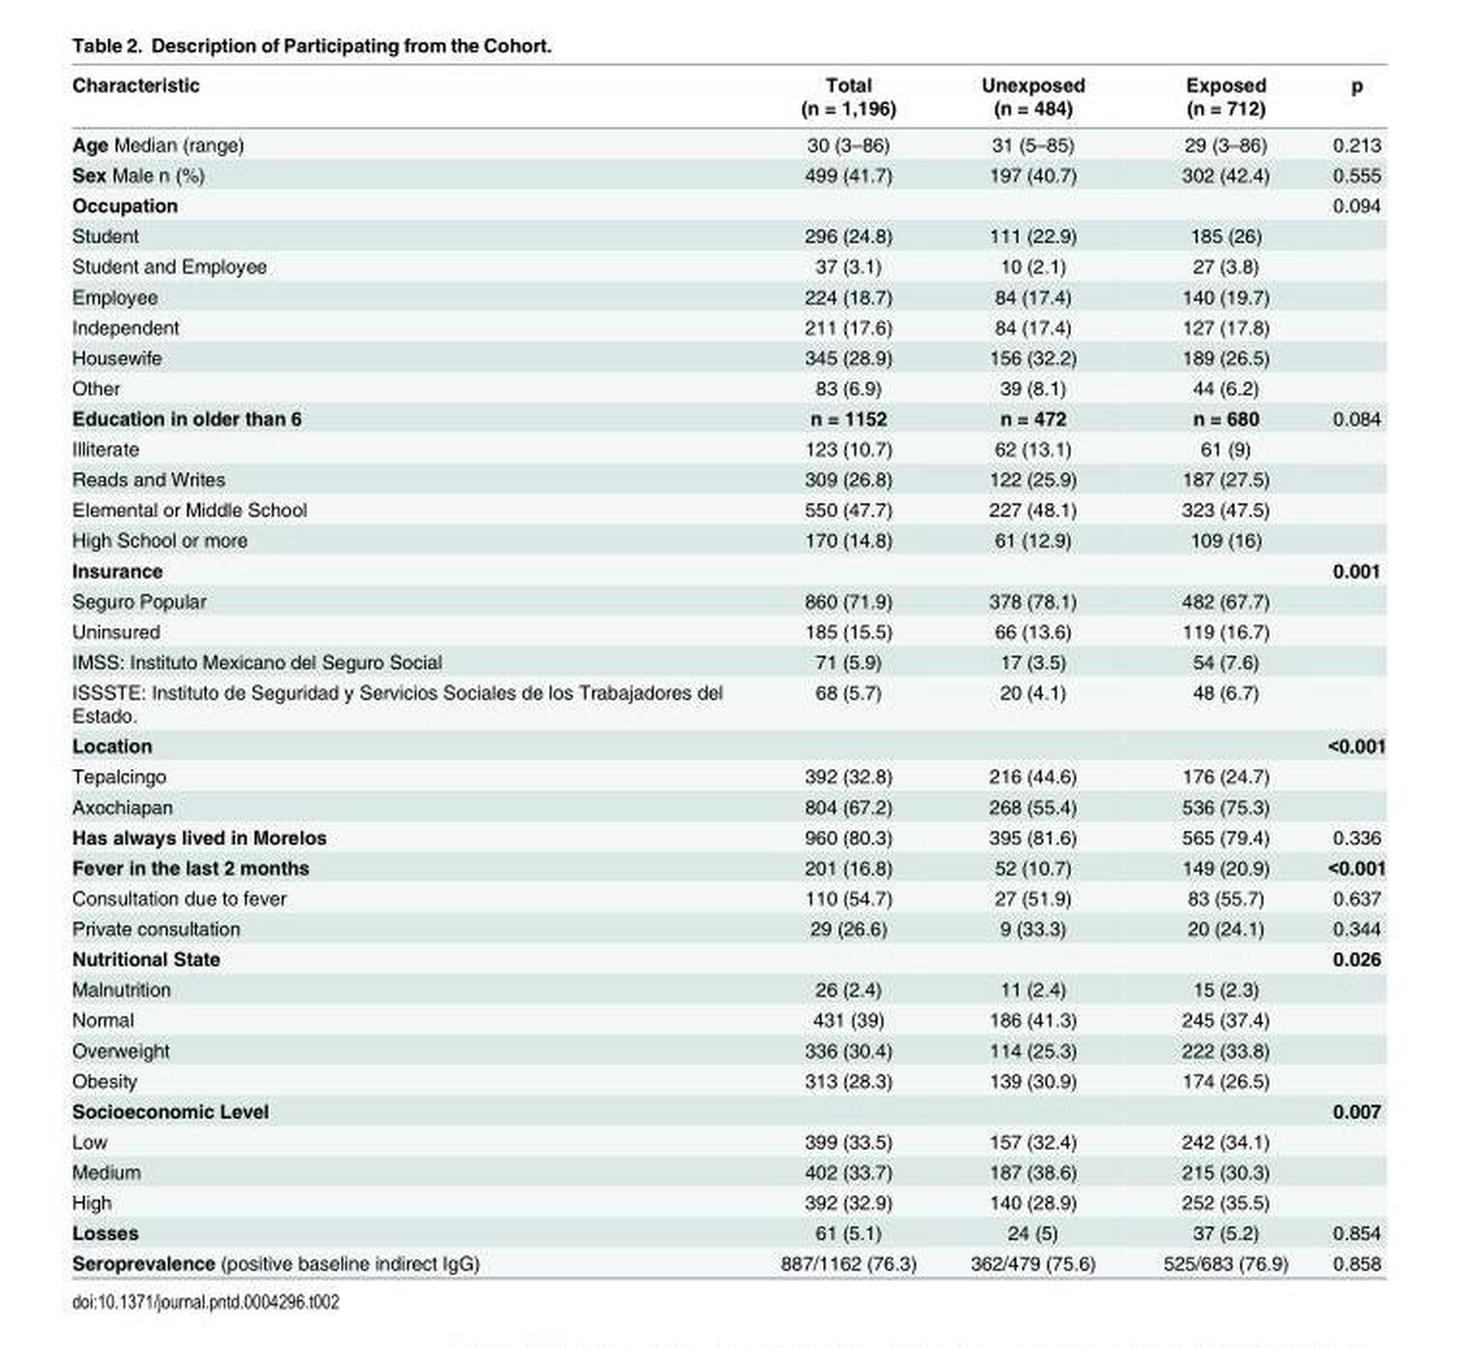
<table><thead><tr><td>Characteristic</td><td>Total (n = 1,196)</td><td>Unexposed (n = 484)</td><td>Exposed (n = 712)</td><td>p</td></tr></thead><tbody><tr><td>Age Median (range)</td><td>30 (3–86)</td><td>31 (5–85)</td><td>29 (3–86)</td><td>0.213</td></tr><tr><td>Sex Male n (%)</td><td>499 (41.7)</td><td>197 (40.7)</td><td>302 (42.4)</td><td>0.555</td></tr><tr><td>Occupation</td><td></td><td></td><td></td><td>0.094</td></tr><tr><td>Student</td><td>296 (24.8)</td><td>111 (22.9)</td><td>185 (26)</td><td></td></tr><tr><td>Student and Employee</td><td>37 (3.1)</td><td>10 (2.1)</td><td>27 (3.8)</td><td></td></tr><tr><td>Employee</td><td>224 (18.7)</td><td>84 (17.4)</td><td>140 (19.7)</td><td></td></tr><tr><td>Independent</td><td>211 (17.6)</td><td>84 (17.4)</td><td>127 (17.8)</td><td></td></tr><tr><td>Housewife</td><td>345 (28.9)</td><td>156 (32.2)</td><td>189 (26.5)</td><td></td></tr><tr><td>Other</td><td>83 (6.9)</td><td>39 (8.1)</td><td>44 (6.2)</td><td></td></tr><tr><td>Education in older than 6</td><td>n = 1152</td><td>n = 472</td><td>n = 680</td><td>0.084</td></tr><tr><td>Illiterate</td><td>123 (10.7)</td><td>62 (13.1)</td><td>61 (9)</td><td></td></tr><tr><td>Reads and Writes</td><td>309 (26.8)</td><td>122 (25.9)</td><td>187 (27.5)</td><td></td></tr><tr><td>Elemental or Middle School</td><td>550 (47.7)</td><td>227 (48.1)</td><td>323 (47.5)</td><td></td></tr><tr><td>High School or more</td><td>170 (14.8)</td><td>61 (12.9)</td><td>109 (16)</td><td></td></tr><tr><td>Insurance</td><td></td><td></td><td></td><td>0.001</td></tr><tr><td>Seguro Popular</td><td>860 (71.9)</td><td>378 (78.1)</td><td>482 (67.7)</td><td></td></tr><tr><td>Uninsured</td><td>185 (15.5)</td><td>66 (13.6)</td><td>119 (16.7)</td><td></td></tr><tr><td>IMSS: Instituto Mexicano del Seguro Social</td><td>71 (5.9)</td><td>17 (3.5)</td><td>54 (7.6)</td><td></td></tr><tr><td>ISSSTE: Instituto de Seguridad y Servicios Sociales de los Trabajadores del Estado.</td><td>68 (5.7)</td><td>20 (4.1)</td><td>48 (6.7)</td><td></td></tr><tr><td>Location</td><td></td><td></td><td></td><td>&lt;0.001</td></tr><tr><td>Tepalcingo</td><td>392 (32.8)</td><td>216 (44.6)</td><td>176 (24.7)</td><td></td></tr><tr><td>Axochiapan</td><td>804 (67.2)</td><td>268 (55.4)</td><td>536 (75.3)</td><td></td></tr><tr><td>Has always lived in Morelos</td><td>960 (80.3)</td><td>395 (81.6)</td><td>565 (79.4)</td><td>0.336</td></tr><tr><td>Fever in the last 2 months</td><td>201 (16.8)</td><td>52 (10.7)</td><td>149 (20.9)</td><td>&lt;0.001</td></tr><tr><td>Consultation due to fever</td><td>110 (54.7)</td><td>27 (51.9)</td><td>83 (55.7)</td><td>0.637</td></tr><tr><td>Private consultation</td><td>29 (26.6)</td><td>9 (33.3)</td><td>20 (24.1)</td><td>0.344</td></tr><tr><td>Nutritional State</td><td></td><td></td><td></td><td>0.026</td></tr><tr><td>Malnutrition</td><td>26 (2.4)</td><td>11 (2.4)</td><td>15 (2.3)</td><td></td></tr><tr><td>Normal</td><td>431 (39)</td><td>186 (41.3)</td><td>245 (37.4)</td><td></td></tr><tr><td>Overweight</td><td>336 (30.4)</td><td>114 (25.3)</td><td>222 (33.8)</td><td></td></tr><tr><td>Obesity</td><td>313 (28.3)</td><td>139 (30.9)</td><td>174 (26.5)</td><td></td></tr><tr><td>Socioeconomic Level</td><td></td><td></td><td></td><td>0.007</td></tr><tr><td>Low</td><td>399 (33.5)</td><td>157 (32.4)</td><td>242 (34.1)</td><td></td></tr><tr><td>Medium</td><td>402 (33.7)</td><td>187 (38.6)</td><td>215 (30.3)</td><td></td></tr><tr><td>High</td><td>392 (32.9)</td><td>140 (28.9)</td><td>252 (35.5)</td><td></td></tr><tr><td>Losses</td><td>61 (5.1)</td><td>24 (5)</td><td>37 (5.2)</td><td>0.854</td></tr><tr><td>Seroprevalence (positive baseline indirect IgG)</td><td>887/1162 (76.3)</td><td>362/479 (75.6)</td><td>525/683 (76.9)</td><td>0.858</td></tr></tbody></table>